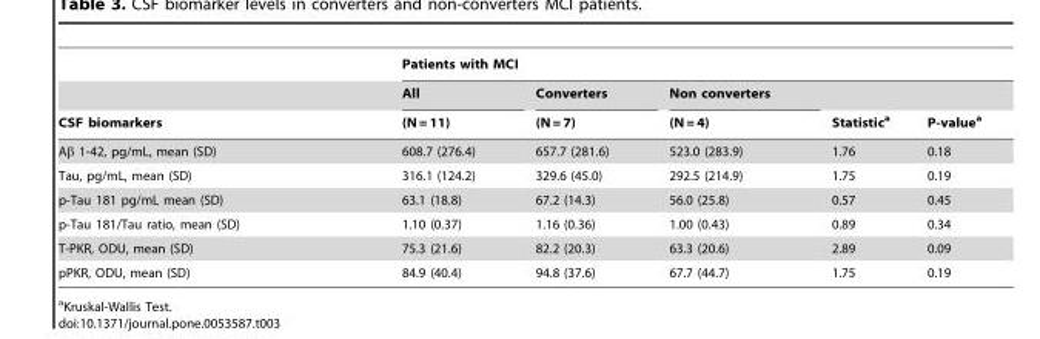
<table><thead><tr><td rowspan="3">CSF biomarkers</td><td colspan="5">Patients with MCI</td></tr><tr><td rowspan="2">All (N = 11)</td><td rowspan="2">Converters (N = 7)</td><td rowspan="2">Non converters (N = 4)</td><td rowspan="2">Statistic<sup>a</sup></td><td rowspan="2">P-value<sup>a</sup></td></tr><tr></tr></thead><tbody><tr><td>Aβ 1-42, pg/mL, mean (SD)</td><td>608.7 (276.4)</td><td>657.7 (281.6)</td><td>523.0 (283.9)</td><td>1.76</td><td>0.18</td></tr><tr><td>Tau, pg/mL, mean (SD)</td><td>316.1 (124.2)</td><td>329.6 (45.0)</td><td>292.5 (214.9)</td><td>1.75</td><td>0.19</td></tr><tr><td>p-Tau 181 pg/mL mean (SD)</td><td>63.1 (18.8)</td><td>67.2 (14.3)</td><td>56.0 (25.8)</td><td>0.57</td><td>0.45</td></tr><tr><td>p-Tau 181/Tau ratio, mean (SD)</td><td>1.10 (0.37)</td><td>1.16 (0.36)</td><td>1.00 (0.43)</td><td>0.89</td><td>0.34</td></tr><tr><td>T-PKR, ODU, mean (SD)</td><td>75.3 (21.6)</td><td>82.2 (20.3)</td><td>63.3 (20.6)</td><td>2.89</td><td>0.09</td></tr><tr><td>pPKR, ODU, mean (SD)</td><td>84.9 (40.4)</td><td>94.8 (37.6)</td><td>67.7 (44.7)</td><td>1.75</td><td>0.19</td></tr></tbody></table>